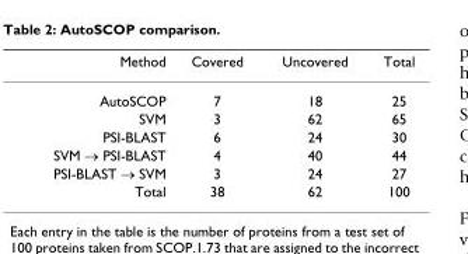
<table><thead><tr><td>Method</td><td>Covered</td><td>Uncovered</td><td>Total</td></tr></thead><tbody><tr><td>AutoSCOP</td><td>7</td><td>18</td><td>25</td></tr><tr><td>SVM</td><td>3</td><td>62</td><td>65</td></tr><tr><td>PSI-BLAST</td><td>6</td><td>24</td><td>30</td></tr><tr><td>SVM → PSI-BLAST</td><td>4</td><td>40</td><td>44</td></tr><tr><td>PSI-BLAST → SVM</td><td>3</td><td>24</td><td>27</td></tr><tr><td>Total</td><td>38</td><td>62</td><td>100</td></tr></tbody></table>